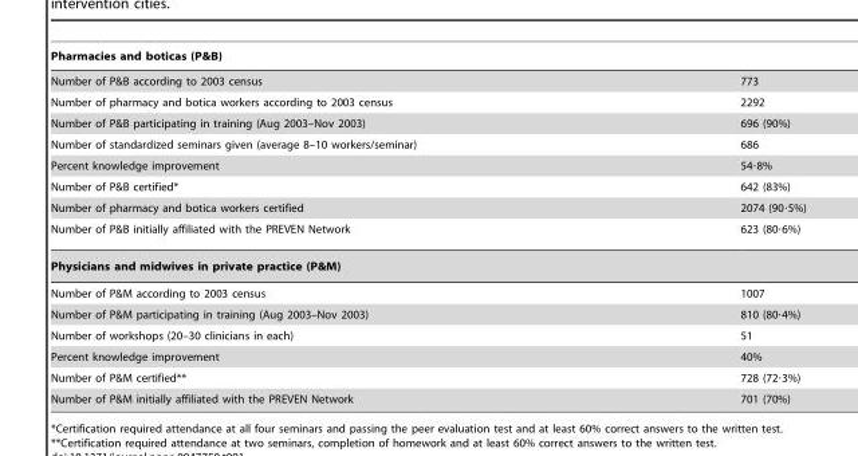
<table><thead><tr><td colspan="2">Pharmacies and boticas (P&amp;B)</td></tr><tr><td>Number of P&amp;B according to 2003 census</td><td>773</td></tr></thead><tbody><tr><td>Number of pharmacy and botica workers according to 2003 census</td><td>2292</td></tr><tr><td>Number of P&amp;B participating in training (Aug 2003–Nov 2003)</td><td>696 (90%)</td></tr><tr><td>Number of standardized seminars given (average 8–10 workers/seminar)</td><td>686</td></tr><tr><td>Percent knowledge improvement</td><td>54·8%</td></tr><tr><td>Number of P&amp;B certified*</td><td>642 (83%)</td></tr><tr><td>Number of pharmacy and botica workers certified</td><td>2074 (90·5%)</td></tr><tr><td>Number of P&amp;B initially affiliated with the PREVEN Network</td><td>623 (80·6%)</td></tr><tr><td colspan="2">Physicians and midwives in private practice (P&amp;M)</td></tr><tr><td>Number of P&amp;M according to 2003 census</td><td>1007</td></tr><tr><td>Number of P&amp;M participating in training (Aug 2003–Nov 2003)</td><td>810 (80·4%)</td></tr><tr><td>Number of workshops (20–30 clinicians in each)</td><td>51</td></tr><tr><td>Percent knowledge improvement</td><td>40%</td></tr><tr><td>Number of P&amp;M certified**</td><td>728 (72·3%)</td></tr><tr><td>Number of P&amp;M initially affiliated with the PREVEN Network</td><td>701 (70%)</td></tr></tbody></table>